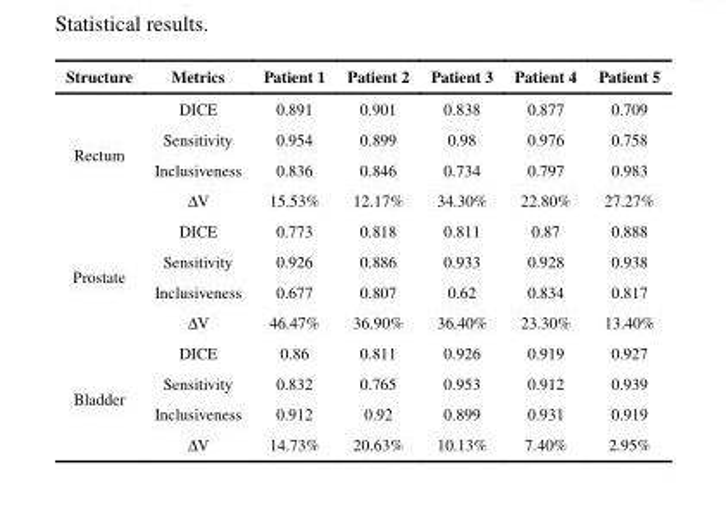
<table><thead><tr><td>Structure</td><td>Metrics</td><td>Patient 1</td><td>Patient 2</td><td>Patient 3</td><td>Patient 4</td><td>Patient 5</td></tr></thead><tbody><tr><td rowspan="4">Rectum</td><td>DICE</td><td>0.891</td><td>0.901</td><td>0.838</td><td>0.877</td><td>0.709</td></tr><tr><td>Sensitivity</td><td>0.954</td><td>0.899</td><td>0.98</td><td>0.976</td><td>0.758</td></tr><tr><td>Inclusiveness</td><td>0.836</td><td>0.846</td><td>0.734</td><td>0.797</td><td>0.983</td></tr><tr><td>ΔV</td><td>15.53%</td><td>12.17%</td><td>34.30%</td><td>22.80%</td><td>27.27%</td></tr><tr><td rowspan="4">Prostate</td><td>DICE</td><td>0.773</td><td>0.818</td><td>0.811</td><td>0.87</td><td>0.888</td></tr><tr><td>Sensitivity</td><td>0.926</td><td>0.886</td><td>0.933</td><td>0.928</td><td>0.938</td></tr><tr><td>Inclusiveness</td><td>0.677</td><td>0.807</td><td>0.62</td><td>0.834</td><td>0.817</td></tr><tr><td>ΔV</td><td>46.47%</td><td>36.90%</td><td>36.40%</td><td>23.30%</td><td>13.40%</td></tr><tr><td rowspan="4">Bladder</td><td>DICE</td><td>0.86</td><td>0.811</td><td>0.926</td><td>0.919</td><td>0.927</td></tr><tr><td>Sensitivity</td><td>0.832</td><td>0.765</td><td>0.953</td><td>0.912</td><td>0.939</td></tr><tr><td>Inclusiveness</td><td>0.912</td><td>0.92</td><td>0.899</td><td>0.931</td><td>0.919</td></tr><tr><td>ΔV</td><td>14.73%</td><td>20.63%</td><td>10.13%</td><td>7.40%</td><td>2.95%</td></tr></tbody></table>